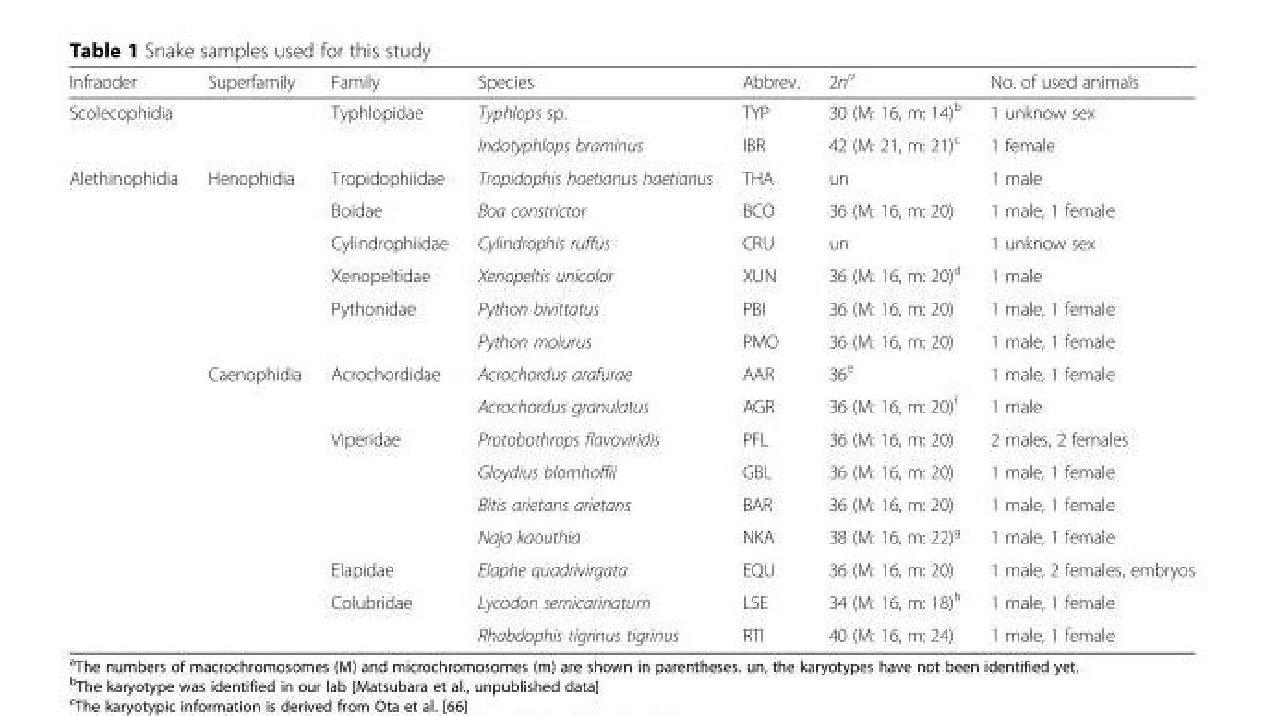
<table><thead><tr><td>Infraoder</td><td>Superfamily</td><td>Family</td><td>Species</td><td>Abbrev.</td><td>2n<sup>a</sup></td><td>No. of used animals</td></tr></thead><tbody><tr><td rowspan="2">Scolecophidia</td><td rowspan="2"></td><td rowspan="2">Typhlopidae</td><td>Typhlops sp.</td><td>TYP</td><td>30 (M: 16, m: 14)<sup>b</sup></td><td>1 unknow sex</td></tr><tr><td>Indotyphlops braminus</td><td>IBR</td><td>42 (M: 21, m: 21)<sup>c</sup></td><td>1 female</td></tr><tr><td rowspan="15">Alethinophidia</td><td rowspan="6">Henophidia</td><td>Tropidophiidae</td><td>Tropidophis haetianus haetianus</td><td>THA</td><td>un</td><td>1 male</td></tr><tr><td>Boidae</td><td>Boa constrictor</td><td>BCO</td><td>36 (M: 16, m: 20)</td><td>1 male, 1 female</td></tr><tr><td>Cylindrophiidae</td><td>Cylindrophis ruffus</td><td>CRU</td><td>un</td><td>1 unknow sex</td></tr><tr><td>Xenopeltidae</td><td>Xenopeltis unicolor</td><td>XUN</td><td>36 (M: 16, m: 20)<sup>d</sup></td><td>1 male</td></tr><tr><td rowspan="2">Pythonidae</td><td>Python bivittatus</td><td>PBI</td><td>36 (M: 16, m: 20)</td><td>1 male, 1 female</td></tr><tr><td>Python molurus</td><td>PMO</td><td>36 (M: 16, m: 20)</td><td>1 male, 1 female</td></tr><tr><td rowspan="9">Caenophidia</td><td rowspan="2">Acrochordidae</td><td>Acrochordus arafurae</td><td>AAR</td><td>36<sup>e</sup></td><td>1 male, 1 female</td></tr><tr><td>Acrochordus granulatus</td><td>AGR</td><td>36 (M: 16, m: 20)<sup>f</sup></td><td>1 male</td></tr><tr><td rowspan="4">Viperidae</td><td>Protobothrops flavoviridis</td><td>PFL</td><td>36 (M: 16, m: 20)</td><td>2 males, 2 females</td></tr><tr><td>Gloydius blomhoffii</td><td>GBL</td><td>36 (M: 16, m: 20)</td><td>1 male, 1 female</td></tr><tr><td>Bitis arietans arietans</td><td>BAR</td><td>36 (M: 16, m: 20)</td><td>1 male, 1 female</td></tr><tr><td>Naja kaouthia</td><td>NKA</td><td>38 (M: 16, m: 22)<sup>g</sup></td><td>1 male, 1 female</td></tr><tr><td>Elapidae</td><td>Elaphe quadrivirgata</td><td>EQU</td><td>36 (M: 16, m: 20)</td><td>1 male, 2 females, embryos</td></tr><tr><td rowspan="2">Colubridae</td><td>Lycodon semicarinatum</td><td>LSE</td><td>34 (M: 16, m: 18)<sup>h</sup></td><td>1 male, 1 female</td></tr><tr><td>Rhabdophis tigrinus tigrinus</td><td>RTI</td><td>40 (M: 16, m: 24)</td><td>1 male, 1 female</td></tr></tbody></table>